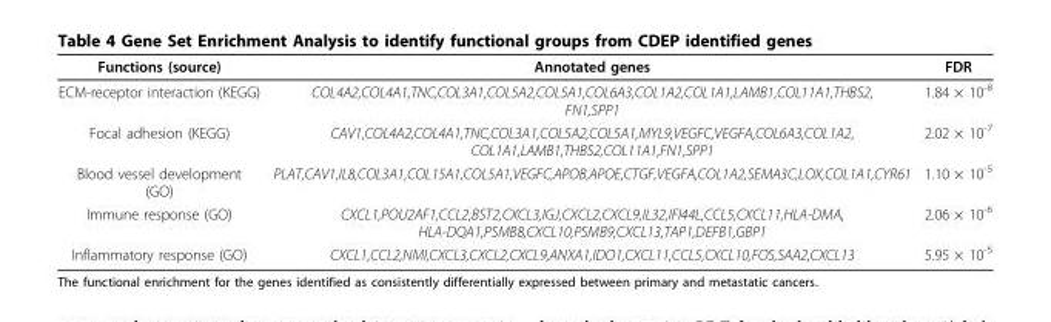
<table><thead><tr><td>Functions (source)</td><td>Annotated genes</td><td>FDR</td></tr></thead><tbody><tr><td>ECM-receptor interaction (KEGG)</td><td>COL4A2,COL4A1,TNC,COL3A1,COL5A2,COL5A1,COL6A3,COL1A2,COL1A1,LAMB1,COL11A1,THBS2, FN1,SPP1</td><td>1.84 × 10<sup>-8</sup></td></tr><tr><td>Focal adhesion (KEGG)</td><td>CAV1,COL4A2,COL4A1,TNC,COL3A1,COL5A2,COL5A1,MYL9,VEGFC,VEGFA,COL6A3,COL1A2, COL1A1,LAMB1,THBS2,COL11A1,FN1,SPP1</td><td>2.02 × 10<sup>-7</sup></td></tr><tr><td>Blood vessel development (GO)</td><td>PLAT,CAV1,IL8,COL3A1,COL15A1,COL5A1,VEGFC,APOB,APOE,CTGF,VEGFA,COL1A2,SEMA3C,LOX,COL1A1,CYR61</td><td>1.10 × 10<sup>-5</sup></td></tr><tr><td>Immune response (GO)</td><td>CXCL1,POU2AF1,CCL2,BST2,CXCL3,IGJ,CXCL2,CXCL9,IL32,IFI44L,CCL5,CXCL11,HLA-DMA, HLA-DQA1,PSMB8,CXCL10,PSMB9,CXCL13,TAP1,DEFB1,GBP1</td><td>2.06 × 10<sup>-6</sup></td></tr><tr><td>Inflammatory response (GO)</td><td>CXCL1,CCL2,NMI,CXCL3,CXCL2,CXCL9,ANXA1,IDO1,CXCL11,CCL5,CXCL10,FOS,SAA2,CXCL13</td><td>5.95 × 10<sup>-5</sup></td></tr></tbody></table>